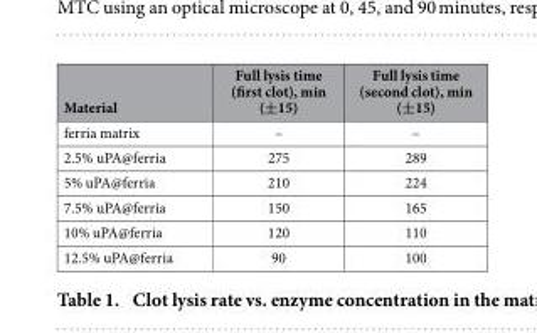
<table><thead><tr><td>Material</td><td>Full lysis time (first clot), min (±15)</td><td>Full lysis time (second clot), min (±15)</td></tr></thead><tbody><tr><td>ferria matrix</td><td>–</td><td>–</td></tr><tr><td>2.5% uPA@ferria</td><td>275</td><td>289</td></tr><tr><td>5% uPA@ferria</td><td>210</td><td>224</td></tr><tr><td>7.5% uPA@ferria</td><td>150</td><td>165</td></tr><tr><td>10% uPA@ferria</td><td>120</td><td>110</td></tr><tr><td>12.5% uPA@ferria</td><td>90</td><td>100</td></tr></tbody></table>